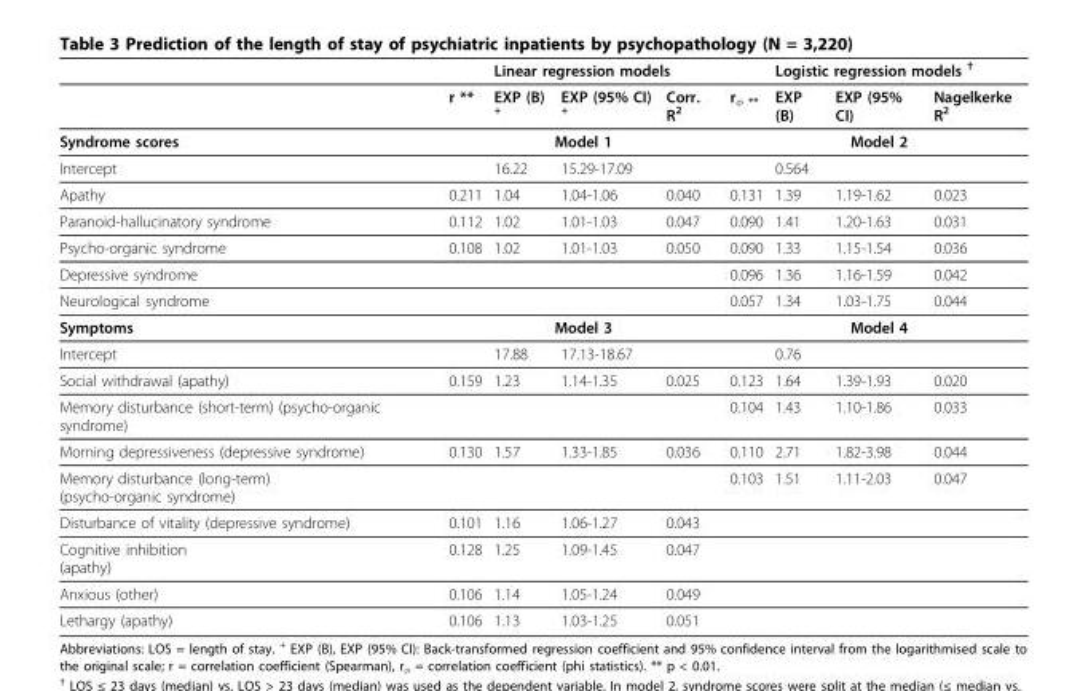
<table><thead><tr><td rowspan="2"></td><td rowspan="2">r **</td><td colspan="3">Linear regression models</td><td rowspan="2">r<sub>φ **</sub></td><td colspan="3">Logistic regression models <sup>†</sup></td></tr><tr><td>EXP (B) <sup>+</sup></td><td>EXP (95% CI) <sup>+</sup></td><td>Corr. R<sup>2</sup></td><td>EXP (B)</td><td>EXP (95% CI)</td><td>Nagelkerke R<sup>2</sup></td></tr></thead><tbody><tr><td>Syndrome scores</td><td colspan="4">Model 1</td><td colspan="4">Model 2</td></tr><tr><td>Intercept</td><td></td><td>16.22</td><td>15.29-17.09</td><td></td><td></td><td>0.564</td><td></td><td></td></tr><tr><td>Apathy</td><td>0.211</td><td>1.04</td><td>1.04-1.06</td><td>0.040</td><td>0.131</td><td>1.39</td><td>1.19-1.62</td><td>0.023</td></tr><tr><td>Paranoid-hallucinatory syndrome</td><td>0.112</td><td>1.02</td><td>1.01-1.03</td><td>0.047</td><td>0.090</td><td>1.41</td><td>1.20-1.63</td><td>0.031</td></tr><tr><td>Psycho-organic syndrome</td><td>0.108</td><td>1.02</td><td>1.01-1.03</td><td>0.050</td><td>0.090</td><td>1.33</td><td>1.15-1.54</td><td>0.036</td></tr><tr><td>Depressive syndrome</td><td></td><td></td><td></td><td></td><td>0.096</td><td>1.36</td><td>1.16-1.59</td><td>0.042</td></tr><tr><td>Neurological syndrome</td><td></td><td></td><td></td><td></td><td>0.057</td><td>1.34</td><td>1.03-1.75</td><td>0.044</td></tr><tr><td>Symptoms</td><td colspan="4">Model 3</td><td colspan="4">Model 4</td></tr><tr><td>Intercept</td><td></td><td>17.88</td><td>17.13-18.67</td><td></td><td></td><td>0.76</td><td></td><td></td></tr><tr><td>Social withdrawal (apathy)</td><td>0.159</td><td>1.23</td><td>1.14-1.35</td><td>0.025</td><td>0.123</td><td>1.64</td><td>1.39-1.93</td><td>0.020</td></tr><tr><td>Memory disturbance (short-term) (psycho-organic syndrome)</td><td></td><td></td><td></td><td></td><td>0.104</td><td>1.43</td><td>1.10-1.86</td><td>0.033</td></tr><tr><td>Morning depressiveness (depressive syndrome)</td><td>0.130</td><td>1.57</td><td>1.33-1.85</td><td>0.036</td><td>0.110</td><td>2.71</td><td>1.82-3.98</td><td>0.044</td></tr><tr><td>Memory disturbance (long-term) (psycho-organic syndrome)</td><td></td><td></td><td></td><td></td><td>0.103</td><td>1.51</td><td>1.11-2.03</td><td>0.047</td></tr><tr><td>Disturbance of vitality (depressive syndrome)</td><td>0.101</td><td>1.16</td><td>1.06-1.27</td><td>0.043</td><td></td><td></td><td></td><td></td></tr><tr><td>Cognitive inhibition (apathy)</td><td>0.128</td><td>1.25</td><td>1.09-1.45</td><td>0.047</td><td></td><td></td><td></td><td></td></tr><tr><td>Anxious (other)</td><td>0.106</td><td>1.14</td><td>1.05-1.24</td><td>0.049</td><td></td><td></td><td></td><td></td></tr><tr><td>Lethargy (apathy)</td><td>0.106</td><td>1.13</td><td>1.03-1.25</td><td>0.051</td><td></td><td></td><td></td><td></td></tr></tbody></table>